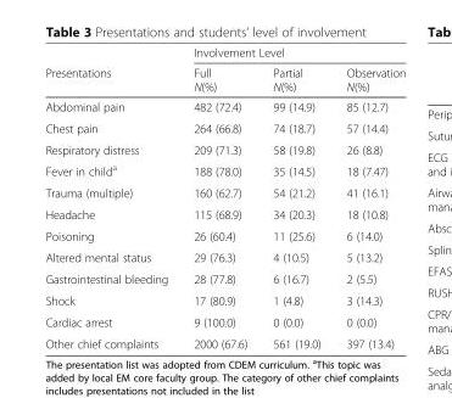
<table><thead><tr><td rowspan="2">Presentations</td><td colspan="3">Involvement Level</td></tr><tr><td>Full N(%)</td><td>Partial N(%)</td><td>Observation N(%)</td></tr></thead><tbody><tr><td>Abdominal pain</td><td>482 (72.4)</td><td>99 (14.9)</td><td>85 (12.7)</td></tr><tr><td>Chest pain</td><td>264 (66.8)</td><td>74 (18.7)</td><td>57 (14.4)</td></tr><tr><td>Respiratory distress</td><td>209 (71.3)</td><td>58 (19.8)</td><td>26 (8.8)</td></tr><tr><td>Fever in child<sup>a</sup></td><td>188 (78.0)</td><td>35 (14.5)</td><td>18 (7.47)</td></tr><tr><td>Trauma (multiple)</td><td>160 (62.7)</td><td>54 (21.2)</td><td>41 (16.1)</td></tr><tr><td>Headache</td><td>115 (68.9)</td><td>34 (20.3)</td><td>18 (10.8)</td></tr><tr><td>Poisoning</td><td>26 (60.4)</td><td>11 (25.6)</td><td>6 (14.0)</td></tr><tr><td>Altered mental status</td><td>29 (76.3)</td><td>4 (10.5)</td><td>5 (13.2)</td></tr><tr><td>Gastrointestinal bleeding</td><td>28 (77.8)</td><td>6 (16.7)</td><td>2 (5.5)</td></tr><tr><td>Shock</td><td>17 (80.9)</td><td>1 (4.8)</td><td>3 (14.3)</td></tr><tr><td>Cardiac arrest</td><td>9 (100.0)</td><td>0 (0.0)</td><td>0 (0.0)</td></tr><tr><td>Other chief complaints</td><td>2000 (67.6)</td><td>561 (19.0)</td><td>397 (13.4)</td></tr></tbody></table>